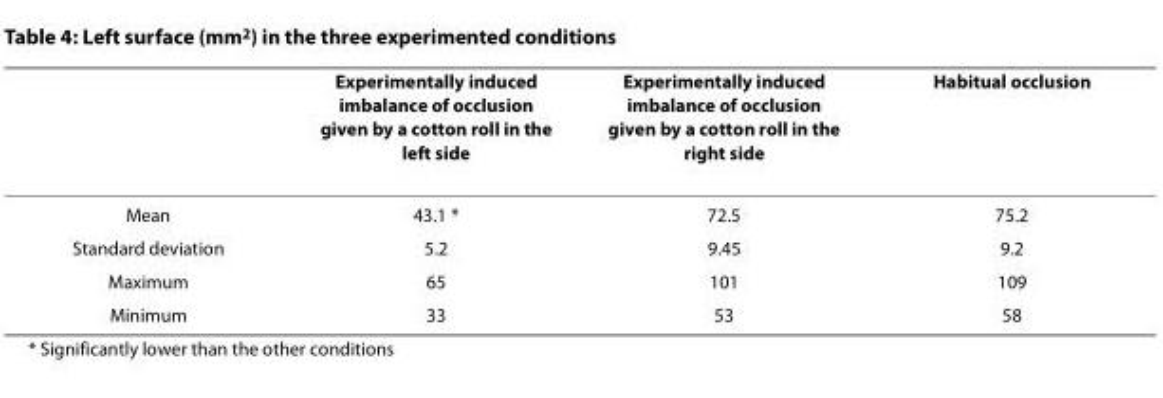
<table><thead><tr><td></td><td>Experimentally induced imbalance of occlusion given by a cotton roll in the left side</td><td>Experimentally induced imbalance of occlusion given by a cotton roll in the right side</td><td>Habitual occlusion</td></tr></thead><tbody><tr><td>Mean</td><td>43.1 *</td><td>72.5</td><td>75.2</td></tr><tr><td>Standard deviation</td><td>5.2</td><td>9.45</td><td>9.2</td></tr><tr><td>Maximum</td><td>65</td><td>101</td><td>109</td></tr><tr><td>Minimum</td><td>33</td><td>53</td><td>58</td></tr></tbody></table>